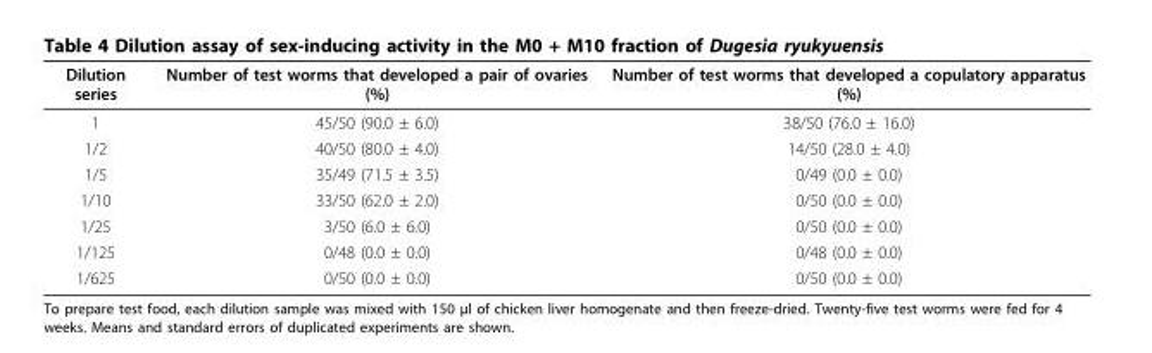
<table><thead><tr><td>Dilution series</td><td>Number of test worms that developed a pair of ovaries (%)</td><td>Number of test worms that developed a copulatory apparatus (%)</td></tr></thead><tbody><tr><td>1</td><td>45/50 (90.0 ± 6.0)</td><td>38/50 (76.0 ± 16.0)</td></tr><tr><td>1/2</td><td>40/50 (80.0 ± 4.0)</td><td>14/50 (28.0 ± 4.0)</td></tr><tr><td>1/5</td><td>35/49 (71.5 ± 3.5)</td><td>0/49 (0.0 ± 0.0)</td></tr><tr><td>1/10</td><td>33/50 (62.0 ± 2.0)</td><td>0/50 (0.0 ± 0.0)</td></tr><tr><td>1/25</td><td>3/50 (6.0 ± 6.0)</td><td>0/50 (0.0 ± 0.0)</td></tr><tr><td>1/125</td><td>0/48 (0.0 ± 0.0)</td><td>0/48 (0.0 ± 0.0)</td></tr><tr><td>1/625</td><td>0/50 (0.0 ± 0.0)</td><td>0/50 (0.0 ± 0.0)</td></tr></tbody></table>